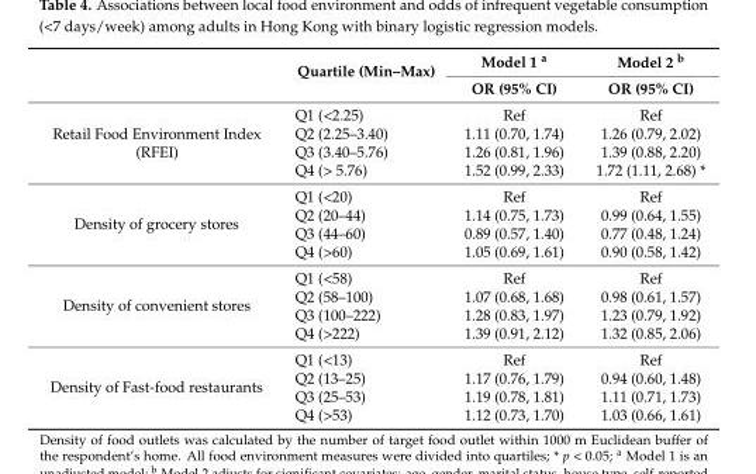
<table><thead><tr><td rowspan="2"></td><td rowspan="2">Quartile (Min–Max)</td><td rowspan="2">Model 1 <sup>a</sup> OR (95% CI)</td><td rowspan="2">Model 2 <sup>b</sup> OR (95% CI)</td></tr><tr></tr></thead><tbody><tr><td rowspan="4">Retail Food Environment Index (RFEI)</td><td>Q1 (&lt;2.25)</td><td>Ref</td><td>Ref</td></tr><tr><td>Q2 (2.25–3.40)</td><td>1.11 (0.70, 1.74)</td><td>1.26 (0.79, 2.02)</td></tr><tr><td>Q3 (3.40–5.76)</td><td>1.26 (0.81, 1.96)</td><td>1.39 (0.88, 2.20)</td></tr><tr><td>Q4 (&gt; 5.76)</td><td>1.52 (0.99, 2.33)</td><td>1.72 (1.11, 2.68) *</td></tr><tr><td rowspan="4">Density of grocery stores</td><td>Q1 (&lt;20)</td><td>Ref</td><td>Ref</td></tr><tr><td>Q2 (20–44)</td><td>1.14 (0.75, 1.73)</td><td>0.99 (0.64, 1.55)</td></tr><tr><td>Q3 (44–60)</td><td>0.89 (0.57, 1.40)</td><td>0.77 (0.48, 1.24)</td></tr><tr><td>Q4 (&gt;60)</td><td>1.05 (0.69, 1.61)</td><td>0.90 (0.58, 1.42)</td></tr><tr><td rowspan="4">Density of convenient stores</td><td>Q1 (&lt;58)</td><td>Ref</td><td>Ref</td></tr><tr><td>Q2 (58–100)</td><td>1.07 (0.68, 1.68)</td><td>0.98 (0.61, 1.57)</td></tr><tr><td>Q3 (100–222)</td><td>1.28 (0.83, 1.97)</td><td>1.23 (0.79, 1.92)</td></tr><tr><td>Q4 (&gt;222)</td><td>1.39 (0.91, 2.12)</td><td>1.32 (0.85, 2.06)</td></tr><tr><td rowspan="4">Density of Fast-food restaurants</td><td>Q1 (&lt;13)</td><td>Ref</td><td>Ref</td></tr><tr><td>Q2 (13–25)</td><td>1.17 (0.76, 1.79)</td><td>0.94 (0.60, 1.48)</td></tr><tr><td>Q3 (25–53)</td><td>1.19 (0.78, 1.81)</td><td>1.11 (0.71, 1.73)</td></tr><tr><td>Q4 (&gt;53)</td><td>1.12 (0.73, 1.70)</td><td>1.03 (0.66, 1.61)</td></tr></tbody></table>